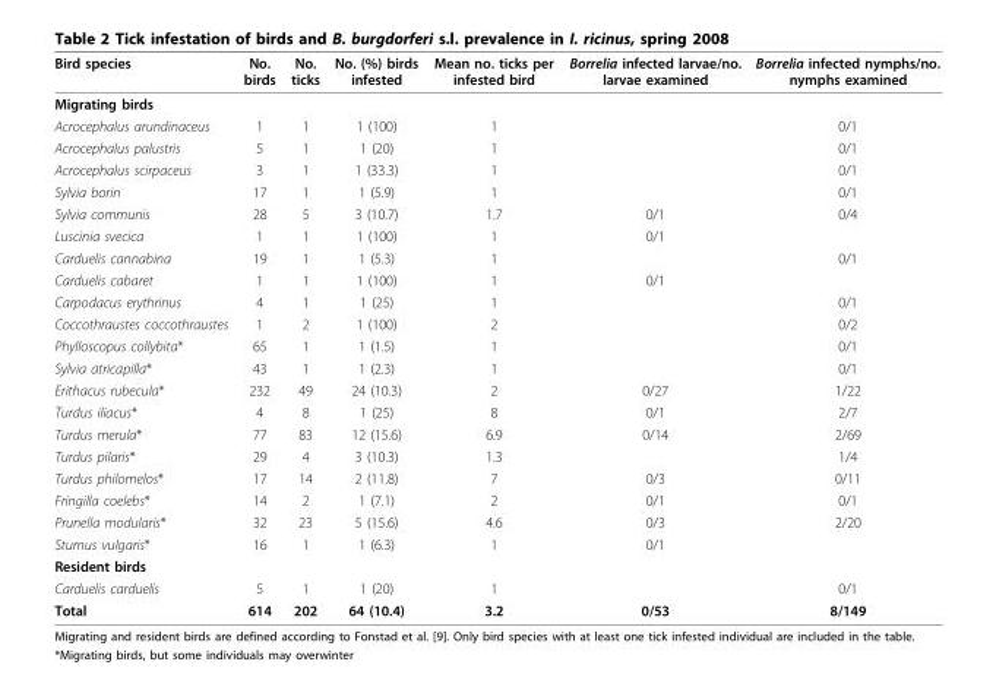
<table><thead><tr><td>Bird species</td><td>No. birds</td><td>No. ticks</td><td>No. (%) birds infested</td><td>Mean no. ticks per infested bird</td><td>Borrelia infected larvae/no. larvae examined</td><td>Borrelia infected nymphs/no. nymphs examined</td></tr></thead><tbody><tr><td colspan="7">Migrating birds</td></tr><tr><td>Acrocephalus arundinaceus</td><td>1</td><td>1</td><td>1 (100)</td><td>1</td><td></td><td>0/1</td></tr><tr><td>Acrocephalus palustris</td><td>5</td><td>1</td><td>1 (20)</td><td>1</td><td></td><td>0/1</td></tr><tr><td>Acrocephalus scirpaceus</td><td>3</td><td>1</td><td>1 (33.3)</td><td>1</td><td></td><td>0/1</td></tr><tr><td>Sylvia borin</td><td>17</td><td>1</td><td>1 (5.9)</td><td>1</td><td></td><td>0/1</td></tr><tr><td>Sylvia communis</td><td>28</td><td>5</td><td>3 (10.7)</td><td>1.7</td><td>0/1</td><td>0/4</td></tr><tr><td>Luscinia svecica</td><td>1</td><td>1</td><td>1 (100)</td><td>1</td><td>0/1</td><td></td></tr><tr><td>Carduelis cannabina</td><td>19</td><td>1</td><td>1 (5.3)</td><td>1</td><td></td><td>0/1</td></tr><tr><td>Carduelis cabaret</td><td>1</td><td>1</td><td>1 (100)</td><td>1</td><td>0/1</td><td></td></tr><tr><td>Carpodacus erythrinus</td><td>4</td><td>1</td><td>1 (25)</td><td>1</td><td></td><td>0/1</td></tr><tr><td>Coccothraustes coccothraustes</td><td>1</td><td>2</td><td>1 (100)</td><td>2</td><td></td><td>0/2</td></tr><tr><td>Phylloscopus collybita*</td><td>65</td><td>1</td><td>1 (1.5)</td><td>1</td><td></td><td>0/1</td></tr><tr><td>Sylvia atricapilla*</td><td>43</td><td>1</td><td>1 (2.3)</td><td>1</td><td></td><td>0/1</td></tr><tr><td>Erithacus rubecula*</td><td>232</td><td>49</td><td>24 (10.3)</td><td>2</td><td>0/27</td><td>1/22</td></tr><tr><td>Turdus iliacus*</td><td>4</td><td>8</td><td>1 (25)</td><td>8</td><td>0/1</td><td>2/7</td></tr><tr><td>Turdus merula*</td><td>77</td><td>83</td><td>12 (15.6)</td><td>6.9</td><td>0/14</td><td>2/69</td></tr><tr><td>Turdus pilaris*</td><td>29</td><td>4</td><td>3 (10.3)</td><td>1.3</td><td></td><td>1/4</td></tr><tr><td>Turdus philomelos*</td><td>17</td><td>14</td><td>2 (11.8)</td><td>7</td><td>0/3</td><td>0/11</td></tr><tr><td>Fringilla coelebs*</td><td>14</td><td>2</td><td>1 (7.1)</td><td>2</td><td>0/1</td><td>0/1</td></tr><tr><td>Prunella modularis*</td><td>32</td><td>23</td><td>5 (15.6)</td><td>4.6</td><td>0/3</td><td>2/20</td></tr><tr><td>Sturnus vulgaris*</td><td>16</td><td>1</td><td>1 (6.3)</td><td>1</td><td>0/1</td><td></td></tr><tr><td colspan="7">Resident birds</td></tr><tr><td>Carduelis carduelis</td><td>5</td><td>1</td><td>1 (20)</td><td>1</td><td></td><td>0/1</td></tr><tr><td>Total</td><td>614</td><td>202</td><td>64 (10.4)</td><td>3.2</td><td>0/53</td><td>8/149</td></tr></tbody></table>